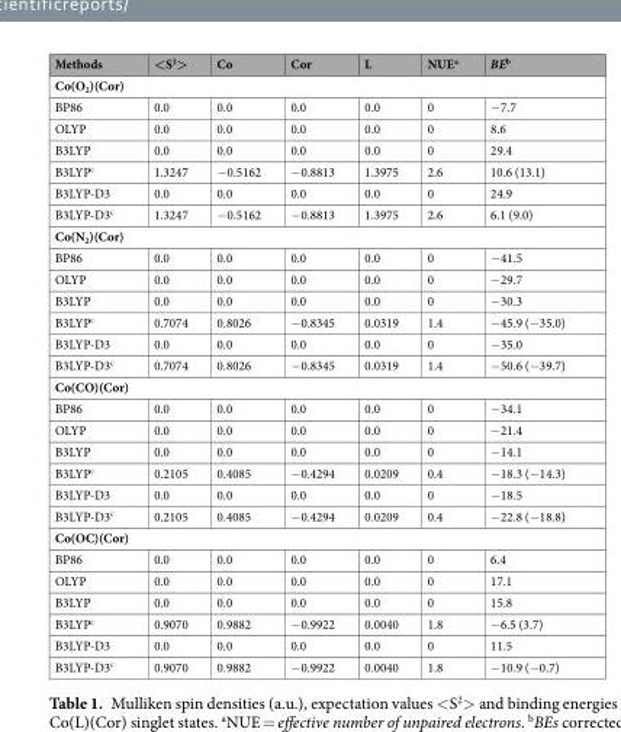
<table><thead><tr><td>Methods</td><td>&lt;S<sup>2</sup>&gt;</td><td>Co</td><td>Cor</td><td>L</td><td>NUE<sup>a</sup></td><td>BE<sup>b</sup></td></tr></thead><tbody><tr><td colspan="7">Co(O<sub>2</sub>)(Cor)</td></tr><tr><td>BP86</td><td>0.0</td><td>0.0</td><td>0.0</td><td>0.0</td><td>0</td><td>−7.7</td></tr><tr><td>OLYP</td><td>0.0</td><td>0.0</td><td>0.0</td><td>0.0</td><td>0</td><td>8.6</td></tr><tr><td>B3LYP</td><td>0.0</td><td>0.0</td><td>0.0</td><td>0.0</td><td>0</td><td>29.4</td></tr><tr><td>B3LYP<sup>c</sup></td><td>1.3247</td><td>−0.5162</td><td>−0.8813</td><td>1.3975</td><td>2.6</td><td>10.6 (13.1)</td></tr><tr><td>B3LYP-D3</td><td>0.0</td><td>0.0</td><td>0.0</td><td>0.0</td><td>0</td><td>24.9</td></tr><tr><td>B3LYP-D3<sup>c</sup></td><td>1.3247</td><td>−0.5162</td><td>−0.8813</td><td>1.3975</td><td>2.6</td><td>6.1 (9.0)</td></tr><tr><td colspan="7">Co(N<sub>2</sub>)(Cor)</td></tr><tr><td>BP86</td><td>0.0</td><td>0.0</td><td>0.0</td><td>0.0</td><td>0</td><td>−41.5</td></tr><tr><td>OLYP</td><td>0.0</td><td>0.0</td><td>0.0</td><td>0.0</td><td>0</td><td>−29.7</td></tr><tr><td>B3LYP</td><td>0.0</td><td>0.0</td><td>0.0</td><td>0.0</td><td>0</td><td>−30.3</td></tr><tr><td>B3LYP<sup>c</sup></td><td>0.7074</td><td>0.8026</td><td>−0.8345</td><td>0.0319</td><td>1.4</td><td>−45.9 (−35.0)</td></tr><tr><td>B3LYP-D3</td><td>0.0</td><td>0.0</td><td>0.0</td><td>0.0</td><td>0</td><td>−35.0</td></tr><tr><td>B3LYP-D3<sup>c</sup></td><td>0.7074</td><td>0.8026</td><td>−0.8345</td><td>0.0319</td><td>1.4</td><td>−50.6 (−39.7)</td></tr><tr><td colspan="7">Co(CO)(Cor)</td></tr><tr><td>BP86</td><td>0.0</td><td>0.0</td><td>0.0</td><td>0.0</td><td>0</td><td>−34.1</td></tr><tr><td>OLYP</td><td>0.0</td><td>0.0</td><td>0.0</td><td>0.0</td><td>0</td><td>−21.4</td></tr><tr><td>B3LYP</td><td>0.0</td><td>0.0</td><td>0.0</td><td>0.0</td><td>0</td><td>−14.1</td></tr><tr><td>B3LYP<sup>c</sup></td><td>0.2105</td><td>0.4085</td><td>−0.4294</td><td>0.0209</td><td>0.4</td><td>−18.3 (−14.3)</td></tr><tr><td>B3LYP-D3</td><td>0.0</td><td>0.0</td><td>0.0</td><td>0.0</td><td>0</td><td>−18.5</td></tr><tr><td>B3LYP-D3<sup>c</sup></td><td>0.2105</td><td>0.4085</td><td>−0.4294</td><td>0.0209</td><td>0.4</td><td>−22.8 (−18.8)</td></tr><tr><td colspan="7">Co(OC)(Cor)</td></tr><tr><td>BP86</td><td>0.0</td><td>0.0</td><td>0.0</td><td>0.0</td><td>0</td><td>6.4</td></tr><tr><td>OLYP</td><td>0.0</td><td>0.0</td><td>0.0</td><td>0.0</td><td>0</td><td>17.1</td></tr><tr><td>B3LYP</td><td>0.0</td><td>0.0</td><td>0.0</td><td>0.0</td><td>0</td><td>15.8</td></tr><tr><td>B3LYP<sup>c</sup></td><td>0.9070</td><td>0.9882</td><td>−0.9922</td><td>0.0040</td><td>1.8</td><td>−6.5 (3.7)</td></tr><tr><td>B3LYP-D3</td><td>0.0</td><td>0.0</td><td>0.0</td><td>0.0</td><td>0</td><td>11.5</td></tr><tr><td>B3LYP-D3<sup>c</sup></td><td>0.9070</td><td>0.9882</td><td>−0.9922</td><td>0.0040</td><td>1.8</td><td>−10.9 (−0.7)</td></tr></tbody></table>